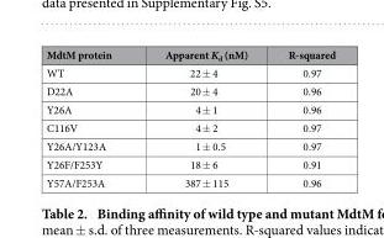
<table><thead><tr><td>MdtM protein</td><td>Apparent K<sub>d</sub> (nM)</td><td>R-squared</td></tr></thead><tbody><tr><td>WT</td><td>22 ± 4</td><td>0.97</td></tr><tr><td>D22A</td><td>20 ± 4</td><td>0.96</td></tr><tr><td>Y26A</td><td>4 ± 1</td><td>0.96</td></tr><tr><td>C116V</td><td>4 ± 2</td><td>0.97</td></tr><tr><td>Y26A/Y123A</td><td>1 ± 0.5</td><td>0.97</td></tr><tr><td>Y26F/F253Y</td><td>18 ± 6</td><td>0.91</td></tr><tr><td>Y57A/F253A</td><td>387 ± 115</td><td>0.96</td></tr></tbody></table>